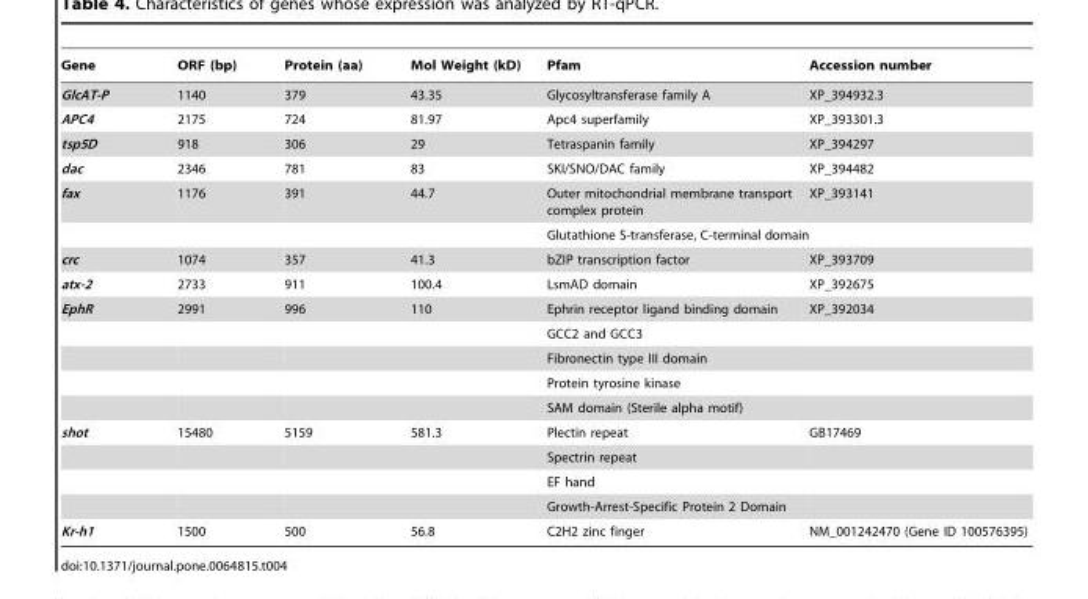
<table><thead><tr><td>Gene</td><td>ORF (bp)</td><td>Protein (aa)</td><td>Mol Weight (kD)</td><td>Pfam</td><td>Accession number</td></tr></thead><tbody><tr><td>GlcAT-P</td><td>1140</td><td>379</td><td>43.35</td><td>Glycosyltransferase family A</td><td>XP_394932.3</td></tr><tr><td>APC4</td><td>2175</td><td>724</td><td>81.97</td><td>Apc4 superfamily</td><td>XP_393301.3</td></tr><tr><td>tsp5D</td><td>918</td><td>306</td><td>29</td><td>Tetraspanin family</td><td>XP_394297</td></tr><tr><td>dac</td><td>2346</td><td>781</td><td>83</td><td>SKI/SNO/DAC family</td><td>XP_394482</td></tr><tr><td rowspan="2">fax</td><td>1176</td><td>391</td><td>44.7</td><td>Outer mitochondrial membrane transport complex protein</td><td>XP_393141</td></tr><tr><td></td><td></td><td></td><td>Glutathione S-transferase, C-terminal domain</td><td></td></tr><tr><td>crc</td><td>1074</td><td>357</td><td>41.3</td><td>bZIP transcription factor</td><td>XP_393709</td></tr><tr><td>atx-2</td><td>2733</td><td>911</td><td>100.4</td><td>LsmAD domain</td><td>XP_392675</td></tr><tr><td rowspan="5">EphR</td><td>2991</td><td>996</td><td>110</td><td>Ephrin receptor ligand binding domain</td><td>XP_392034</td></tr><tr><td></td><td></td><td></td><td>GCC2 and GCC3</td><td></td></tr><tr><td></td><td></td><td></td><td>Fibronectin type III domain</td><td></td></tr><tr><td></td><td></td><td></td><td>Protein tyrosine kinase</td><td></td></tr><tr><td></td><td></td><td></td><td>SAM domain (Sterile alpha motif)</td><td></td></tr><tr><td rowspan="4">shot</td><td>15480</td><td>5159</td><td>581.3</td><td>Plectin repeat</td><td>GB17469</td></tr><tr><td></td><td></td><td></td><td>Spectrin repeat</td><td></td></tr><tr><td></td><td></td><td></td><td>EF hand</td><td></td></tr><tr><td></td><td></td><td></td><td>Growth-Arrest-Specific Protein 2 Domain</td><td></td></tr><tr><td>Kr-h1</td><td>1500</td><td>500</td><td>56.8</td><td>C2H2 zinc finger</td><td>NM_001242470 (Gene ID 100576395)</td></tr></tbody></table>